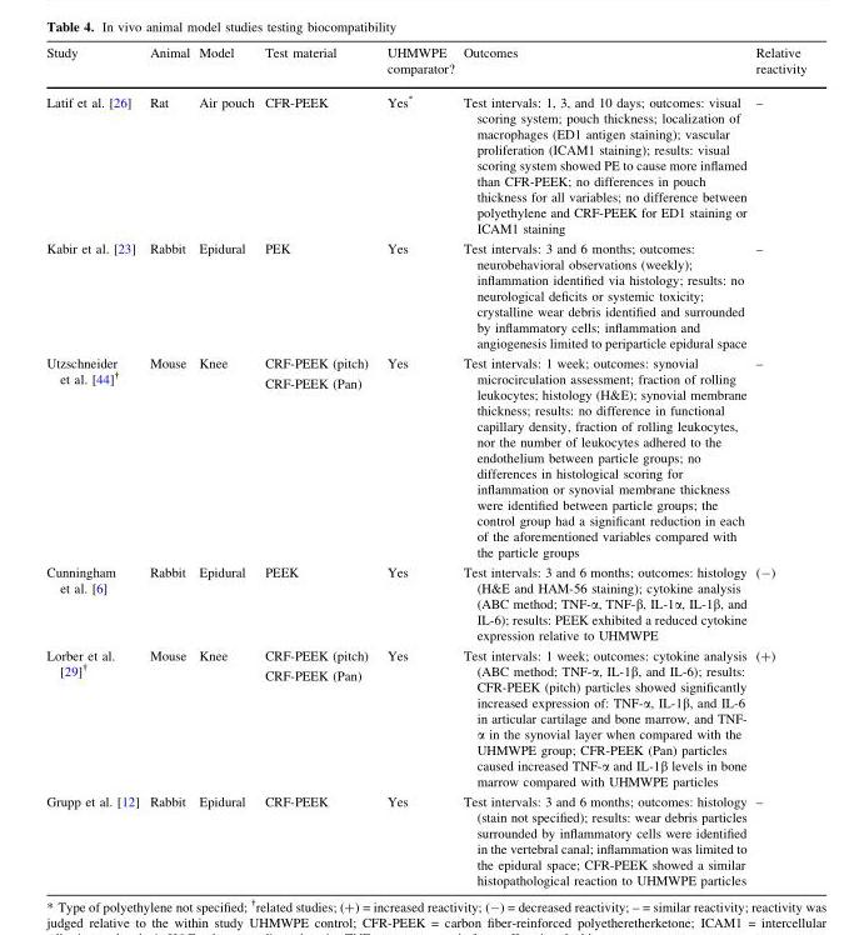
<table><thead><tr><td>Study</td><td>Animal</td><td>Model</td><td>Test material</td><td>UHMWPE comparator?</td><td>Outcomes</td><td>Relative reactivity</td></tr></thead><tbody><tr><td>Latif et al. [26]</td><td>Rat</td><td>Air pouch</td><td>CFR-PEEK</td><td>Yes*</td><td>Test intervals: 1, 3, and 10 days; outcomes: visual scoring system; pouch thickness; localization of macrophages (ED1 antigen staining); vascular proliferation (ICAM1 staining); results: visual scoring system showed PE to cause more inflamed than CFR-PEEK; no differences in pouch thickness for all variables; no difference between polyethylene and CRF-PEEK for ED1 staining or ICAM1 staining</td><td>–</td></tr><tr><td>Kabir et al. [23]</td><td>Rabbit</td><td>Epidural</td><td>PEK</td><td>Yes</td><td>Test intervals: 3 and 6 months; outcomes: neurobehavioral observations (weekly); inflammation identified via histology; results: no neurological deficits or systemic toxicity; crystalline wear debris identified and surrounded by inflammatory cells; inflammation and angiogenesis limited to periparticle epidural space</td><td>–</td></tr><tr><td>Utzschneider et al. [44]<sup>†</sup></td><td>Mouse</td><td>Knee</td><td>CRF-PEEK (pitch) CRF-PEEK (Pan)</td><td>Yes</td><td>Test intervals: 1 week; outcomes: synovial microcirculation assessment; fraction of rolling leukocytes; histology (H&amp;E); synovial membrane thickness; results: no difference in functional capillary density, fraction of rolling leukocytes, nor the number of leukocytes adhered to the endothelium between particle groups; no differences in histological scoring for inflammation or synovial membrane thickness were identified between particle groups; the control group had a significant reduction in each of the aforementioned variables compared with the particle groups</td><td>–</td></tr><tr><td>Cunningham et al. [6]</td><td>Rabbit</td><td>Epidural</td><td>PEEK</td><td>Yes</td><td>Test intervals: 3 and 6 months; outcomes: histology (H&amp;E and HAM-56 staining); cytokine analysis (ABC method; TNF-α, TNF-β, IL-1α, IL-1β, and IL-6); results: PEEK exhibited a reduced cytokine expression relative to UHMWPE</td><td>(−)</td></tr><tr><td>Lorber et al. [29]<sup>†</sup></td><td>Mouse</td><td>Knee</td><td>CRF-PEEK (pitch) CRF-PEEK (Pan)</td><td>Yes</td><td>Test intervals: 1 week; outcomes: cytokine analysis (ABC method; TNF-α, IL-1β, and IL-6); results: CFR-PEEK (pitch) particles showed significantly increased expression of: TNF-α, IL-1β, and IL-6 in articular cartilage and bone marrow, and TNF- α in the synovial layer when compared with the UHMWPE group; CFR-PEEK (Pan) particles caused increased TNF-α and IL-1β levels in bone marrow compared with UHMWPE particles</td><td>(+)</td></tr><tr><td>Grupp et al. [12]</td><td>Rabbit</td><td>Epidural</td><td>CRF-PEEK</td><td>Yes</td><td>Test intervals: 3 and 6 months; outcomes: histology (stain not specified); results: wear debris particles surrounded by inflammatory cells were identified in the vertebral canal; inflammation was limited to the epidural space; CFR-PEEK showed a similar histopathological reaction to UHMWPE particles</td><td>–</td></tr></tbody></table>